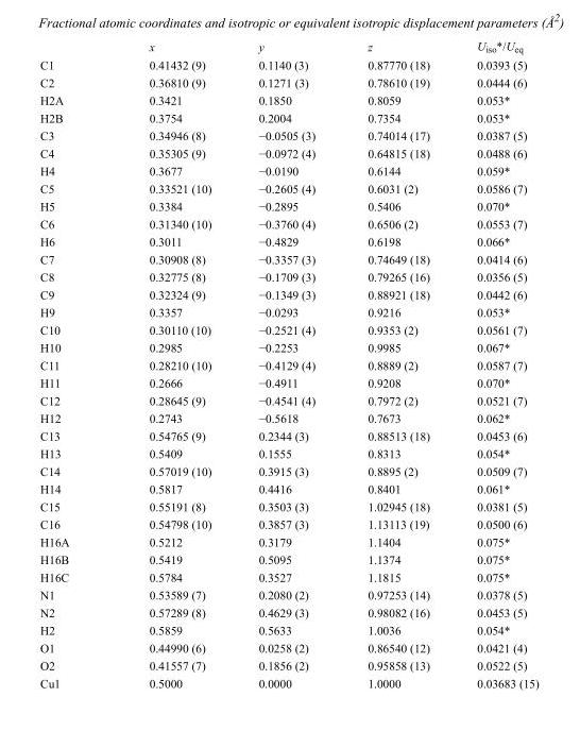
<table><thead><tr><td></td><td>x</td><td>y</td><td>z</td><td>U<sub>iso</sub>*/U<sub>eq</sub></td></tr></thead><tbody><tr><td>C1</td><td>0.41432 (9)</td><td>0.1140 (3)</td><td>0.87770 (18)</td><td>0.0393 (5)</td></tr><tr><td>C2</td><td>0.36810 (9)</td><td>0.1271 (3)</td><td>0.78610 (19)</td><td>0.0444 (6)</td></tr><tr><td>H2A</td><td>0.3421</td><td>0.1850</td><td>0.8059</td><td>0.053*</td></tr><tr><td>H2B</td><td>0.3754</td><td>0.2004</td><td>0.7354</td><td>0.053*</td></tr><tr><td>C3</td><td>0.34946 (8)</td><td>−0.0505 (3)</td><td>0.74014 (17)</td><td>0.0387 (5)</td></tr><tr><td>C4</td><td>0.35305 (9)</td><td>−0.0972 (4)</td><td>0.64815 (18)</td><td>0.0488 (6)</td></tr><tr><td>H4</td><td>0.3677</td><td>−0.0190</td><td>0.6144</td><td>0.059*</td></tr><tr><td>C5</td><td>0.33521 (10)</td><td>−0.2605 (4)</td><td>0.6031 (2)</td><td>0.0586 (7)</td></tr><tr><td>H5</td><td>0.3384</td><td>−0.2895</td><td>0.5406</td><td>0.070*</td></tr><tr><td>C6</td><td>0.31340 (10)</td><td>−0.3760 (4)</td><td>0.6506 (2)</td><td>0.0553 (7)</td></tr><tr><td>H6</td><td>0.3011</td><td>−0.4829</td><td>0.6198</td><td>0.066*</td></tr><tr><td>C7</td><td>0.30908 (8)</td><td>−0.3357 (3)</td><td>0.74649 (18)</td><td>0.0414 (6)</td></tr><tr><td>C8</td><td>0.32775 (8)</td><td>−0.1709 (3)</td><td>0.79265 (16)</td><td>0.0356 (5)</td></tr><tr><td>C9</td><td>0.32324 (9)</td><td>−0.1349 (3)</td><td>0.88921 (18)</td><td>0.0442 (6)</td></tr><tr><td>H9</td><td>0.3357</td><td>−0.0293</td><td>0.9216</td><td>0.053*</td></tr><tr><td>C10</td><td>0.30110 (10)</td><td>−0.2521 (4)</td><td>0.9353 (2)</td><td>0.0561 (7)</td></tr><tr><td>H10</td><td>0.2985</td><td>−0.2253</td><td>0.9985</td><td>0.067*</td></tr><tr><td>C11</td><td>0.28210 (10)</td><td>−0.4129 (4)</td><td>0.8889 (2)</td><td>0.0587 (7)</td></tr><tr><td>H11</td><td>0.2666</td><td>−0.4911</td><td>0.9208</td><td>0.070*</td></tr><tr><td>C12</td><td>0.28645 (9)</td><td>−0.4541 (4)</td><td>0.7972 (2)</td><td>0.0521 (7)</td></tr><tr><td>H12</td><td>0.2743</td><td>−0.5618</td><td>0.7673</td><td>0.062*</td></tr><tr><td>C13</td><td>0.54765 (9)</td><td>0.2344 (3)</td><td>0.88513 (18)</td><td>0.0453 (6)</td></tr><tr><td>H13</td><td>0.5409</td><td>0.1555</td><td>0.8313</td><td>0.054*</td></tr><tr><td>C14</td><td>0.57019 (10)</td><td>0.3915 (3)</td><td>0.8895 (2)</td><td>0.0509 (7)</td></tr><tr><td>H14</td><td>0.5817</td><td>0.4416</td><td>0.8401</td><td>0.061*</td></tr><tr><td>C15</td><td>0.55191 (8)</td><td>0.3503 (3)</td><td>1.02945 (18)</td><td>0.0381 (5)</td></tr><tr><td>C16</td><td>0.54798 (10)</td><td>0.3857 (3)</td><td>1.13113 (19)</td><td>0.0500 (6)</td></tr><tr><td>H16A</td><td>0.5212</td><td>0.3179</td><td>1.1404</td><td>0.075*</td></tr><tr><td>H16B</td><td>0.5419</td><td>0.5095</td><td>1.1374</td><td>0.075*</td></tr><tr><td>H16C</td><td>0.5784</td><td>0.3527</td><td>1.1815</td><td>0.075*</td></tr><tr><td>N1</td><td>0.53589 (7)</td><td>0.2080 (2)</td><td>0.97253 (14)</td><td>0.0378 (5)</td></tr><tr><td>N2</td><td>0.57289 (8)</td><td>0.4629 (3)</td><td>0.98082 (16)</td><td>0.0453 (5)</td></tr><tr><td>H2</td><td>0.5859</td><td>0.5633</td><td>1.0036</td><td>0.054*</td></tr><tr><td>O1</td><td>0.44990 (6)</td><td>0.0258 (2)</td><td>0.86540 (12)</td><td>0.0421 (4)</td></tr><tr><td>O2</td><td>0.41557 (7)</td><td>0.1856 (2)</td><td>0.95858 (13)</td><td>0.0522 (5)</td></tr><tr><td>Cu1</td><td>0.5000</td><td>0.0000</td><td>1.0000</td><td>0.03683 (15)</td></tr></tbody></table>